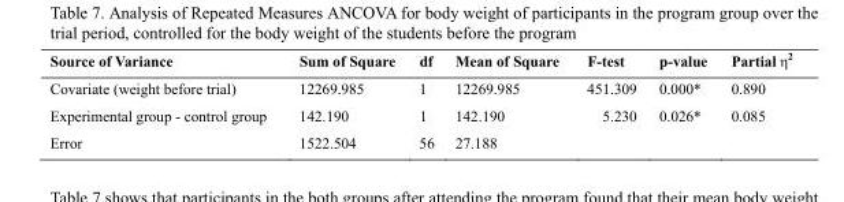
<table><thead><tr><td>Source of Variance</td><td>Sum of Square</td><td>df</td><td>Mean of Square</td><td>F-test</td><td>p-value</td><td>Partial η<sup>2</sup></td></tr></thead><tbody><tr><td>Covariate (weight before trial)</td><td>12269.985</td><td>1</td><td>12269.985</td><td>451.309</td><td>0.000*</td><td>0.890</td></tr><tr><td>Experimental group - control group</td><td>142.190</td><td>1</td><td>142.190</td><td>5.230</td><td>0.026*</td><td>0.085</td></tr><tr><td>Error</td><td>1522.504</td><td>56</td><td>27.188</td><td></td><td></td><td></td></tr></tbody></table>